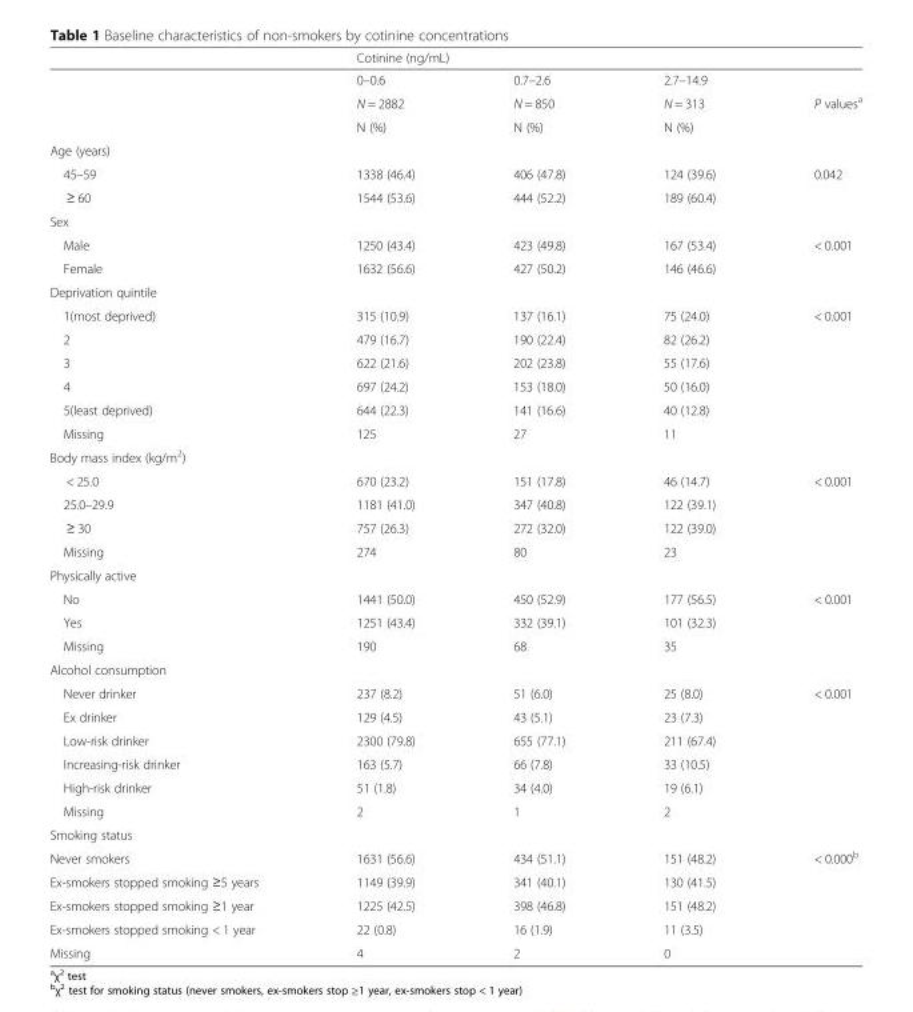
<table><thead><tr><td rowspan="2"></td><td colspan="3">Cotinine (ng/mL)</td><td rowspan="2"></td></tr><tr><td>0–0.6</td><td>0.7–2.6</td><td>2.7–14.9</td></tr></thead><tbody><tr><td></td><td>N = 2882</td><td>N = 850</td><td>N = 313</td><td>P values<sup>a</sup></td></tr><tr><td></td><td>N (%)</td><td>N (%)</td><td>N (%)</td><td></td></tr><tr><td colspan="5">Age (years)</td></tr><tr><td>45–59</td><td>1338 (46.4)</td><td>406 (47.8)</td><td>124 (39.6)</td><td>0.042</td></tr><tr><td>≥ 60</td><td>1544 (53.6)</td><td>444 (52.2)</td><td>189 (60.4)</td><td></td></tr><tr><td colspan="5">Sex</td></tr><tr><td>Male</td><td>1250 (43.4)</td><td>423 (49.8)</td><td>167 (53.4)</td><td>&lt; 0.001</td></tr><tr><td>Female</td><td>1632 (56.6)</td><td>427 (50.2)</td><td>146 (46.6)</td><td></td></tr><tr><td colspan="5">Deprivation quintile</td></tr><tr><td>1(most deprived)</td><td>315 (10.9)</td><td>137 (16.1)</td><td>75 (24.0)</td><td>&lt; 0.001</td></tr><tr><td>2</td><td>479 (16.7)</td><td>190 (22.4)</td><td>82 (26.2)</td><td></td></tr><tr><td>3</td><td>622 (21.6)</td><td>202 (23.8)</td><td>55 (17.6)</td><td></td></tr><tr><td>4</td><td>697 (24.2)</td><td>153 (18.0)</td><td>50 (16.0)</td><td></td></tr><tr><td>5(least deprived)</td><td>644 (22.3)</td><td>141 (16.6)</td><td>40 (12.8)</td><td></td></tr><tr><td>Missing</td><td>125</td><td>27</td><td>11</td><td></td></tr><tr><td colspan="5">Body mass index (kg/m<sup>2</sup>)</td></tr><tr><td>&lt; 25.0</td><td>670 (23.2)</td><td>151 (17.8)</td><td>46 (14.7)</td><td>&lt; 0.001</td></tr><tr><td>25.0–29.9</td><td>1181 (41.0)</td><td>347 (40.8)</td><td>122 (39.1)</td><td></td></tr><tr><td>≥ 30</td><td>757 (26.3)</td><td>272 (32.0)</td><td>122 (39.0)</td><td></td></tr><tr><td>Missing</td><td>274</td><td>80</td><td>23</td><td></td></tr><tr><td colspan="5">Physically active</td></tr><tr><td>No</td><td>1441 (50.0)</td><td>450 (52.9)</td><td>177 (56.5)</td><td>&lt; 0.001</td></tr><tr><td>Yes</td><td>1251 (43.4)</td><td>332 (39.1)</td><td>101 (32.3)</td><td></td></tr><tr><td>Missing</td><td>190</td><td>68</td><td>35</td><td></td></tr><tr><td colspan="5">Alcohol consumption</td></tr><tr><td>Never drinker</td><td>237 (8.2)</td><td>51 (6.0)</td><td>25 (8.0)</td><td>&lt; 0.001</td></tr><tr><td>Ex drinker</td><td>129 (4.5)</td><td>43 (5.1)</td><td>23 (7.3)</td><td></td></tr><tr><td>Low-risk drinker</td><td>2300 (79.8)</td><td>655 (77.1)</td><td>211 (67.4)</td><td></td></tr><tr><td>Increasing-risk drinker</td><td>163 (5.7)</td><td>66 (7.8)</td><td>33 (10.5)</td><td></td></tr><tr><td>High-risk drinker</td><td>51 (1.8)</td><td>34 (4.0)</td><td>19 (6.1)</td><td></td></tr><tr><td>Missing</td><td>2</td><td>1</td><td>2</td><td></td></tr><tr><td colspan="5">Smoking status</td></tr><tr><td>Never smokers</td><td>1631 (56.6)</td><td>434 (51.1)</td><td>151 (48.2)</td><td>&lt; 0.000<sup>b</sup></td></tr><tr><td>Ex-smokers stopped smoking ≥5 years</td><td>1149 (39.9)</td><td>341 (40.1)</td><td>130 (41.5)</td><td></td></tr><tr><td>Ex-smokers stopped smoking ≥1 year</td><td>1225 (42.5)</td><td>398 (46.8)</td><td>151 (48.2)</td><td></td></tr><tr><td>Ex-smokers stopped smoking &lt; 1 year</td><td>22 (0.8)</td><td>16 (1.9)</td><td>11 (3.5)</td><td></td></tr><tr><td>Missing</td><td>4</td><td>2</td><td>0</td><td></td></tr></tbody></table>